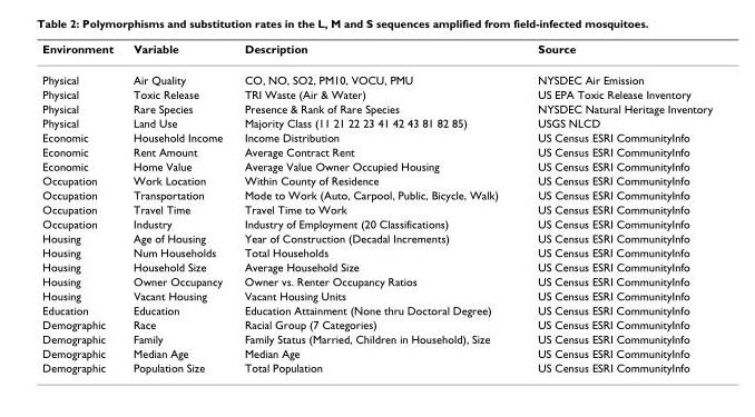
<table><thead><tr><td>Environment</td><td>Variable</td><td>Description</td><td>Source</td></tr></thead><tbody><tr><td>Physical</td><td>Air Quality</td><td>CO, NO, SO2, PM10, VOCU, PMU</td><td>NYSDEC Air Emission</td></tr><tr><td>Physical</td><td>Toxic Release</td><td>TRI Waste (Air &amp; Water)</td><td>US EPA Toxic Release Inventory</td></tr><tr><td>Physical</td><td>Rare Species</td><td>Presence &amp; Rank of Rare Species</td><td>NYSDEC Natural Heritage Inventory</td></tr><tr><td>Physical</td><td>Land Use</td><td>Majority Class (11 21 22 23 41 42 43 81 82 85)</td><td>USGS NLCD</td></tr><tr><td>Economic</td><td>Household Income</td><td>Income Distribution</td><td>US Census ESRI CommunityInfo</td></tr><tr><td>Economic</td><td>Rent Amount</td><td>Average Contract Rent</td><td>US Census ESRI CommunityInfo</td></tr><tr><td>Economic</td><td>Home Value</td><td>Average Value Owner Occupied Housing</td><td>US Census ESRI CommunityInfo</td></tr><tr><td>Occupation</td><td>Work Location</td><td>Within County of Residence</td><td>US Census ESRI CommunityInfo</td></tr><tr><td>Occupation</td><td>Transportation</td><td>Mode to Work (Auto, Carpool, Public, Bicycle, Walk)</td><td>US Census ESRI CommunityInfo</td></tr><tr><td>Occupation</td><td>Travel Time</td><td>Travel Time to Work</td><td>US Census ESRI CommunityInfo</td></tr><tr><td>Occupation</td><td>Industry</td><td>Industry of Employment (20 Classifications)</td><td>US Census ESRI CommunityInfo</td></tr><tr><td>Housing</td><td>Age of Housing</td><td>Year of Construction (Decadal Increments)</td><td>US Census ESRI CommunityInfo</td></tr><tr><td>Housing</td><td>Num Households</td><td>Total Households</td><td>US Census ESRI CommunityInfo</td></tr><tr><td>Housing</td><td>Household Size</td><td>Average Household Size</td><td>US Census ESRI CommunityInfo</td></tr><tr><td>Housing</td><td>Owner Occupancy</td><td>Owner vs. Renter Occupancy Ratios</td><td>US Census ESRI CommunityInfo</td></tr><tr><td>Housing</td><td>Vacant Housing</td><td>Vacant Housing Units</td><td>US Census ESRI CommunityInfo</td></tr><tr><td>Education</td><td>Education</td><td>Education Attainment (None thru Doctoral Degree)</td><td>US Census ESRI CommunityInfo</td></tr><tr><td>Demographic</td><td>Race</td><td>Racial Group (7 Categories)</td><td>US Census ESRI CommunityInfo</td></tr><tr><td>Demographic</td><td>Family</td><td>Family Status (Married, Children in Household), Size</td><td>US Census ESRI CommunityInfo</td></tr><tr><td>Demographic</td><td>Median Age</td><td>Median Age</td><td>US Census ESRI CommunityInfo</td></tr><tr><td>Demographic</td><td>Population Size</td><td>Total Population</td><td>US Census ESRI CommunityInfo</td></tr></tbody></table>